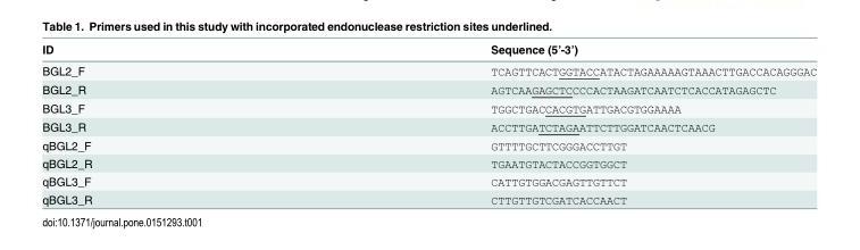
<table><thead><tr><td>ID</td><td>Sequence (5’-3’)</td></tr></thead><tbody><tr><td>BGL2_F</td><td>TCAGTTCACTGGTACCATACTAGAAAAAGTAAACTTGACCACAGGGAC</td></tr><tr><td>BGL2_R</td><td>AGTCAAGAGCTCCCCACTAAGATCAATCTCACCATAGAGCTC</td></tr><tr><td>BGL3_F</td><td>TGGCTGACCACGTGATTGACGTGGAAAA</td></tr><tr><td>BGL3_R</td><td>ACCTTGATCTAGAATTCTTGGATCAACTCAACG</td></tr><tr><td>qBGL2_F</td><td>GTTTTGCTTCGGGACCTTGT</td></tr><tr><td>qBGL2_R</td><td>TGAATGTACTACCGGTGGCT</td></tr><tr><td>qBGL3_F</td><td>CATTGTGGACGAGTTGTTCT</td></tr><tr><td>qBGL3_R</td><td>CTTGTTGTCGATCACCAACT</td></tr></tbody></table>